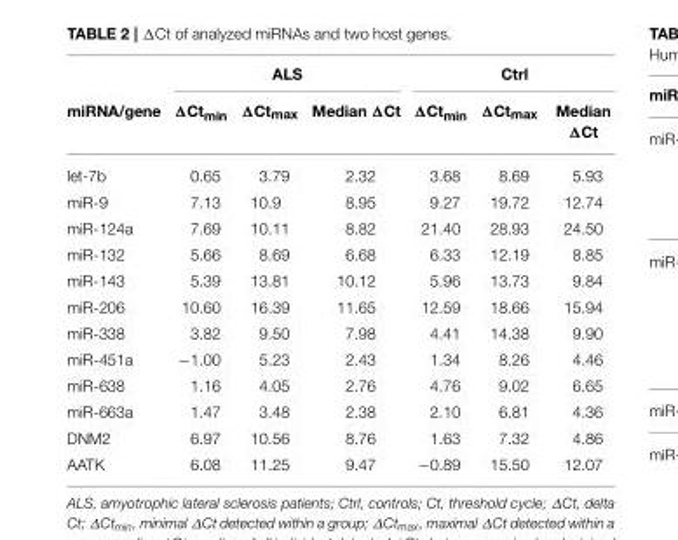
<table><thead><tr><td rowspan="2">miRNA/gene</td><td colspan="3">ALS</td><td colspan="3">Ctrl</td></tr><tr><td>ΔCt<sub>min</sub></td><td>ΔCt<sub>max</sub></td><td>Median ΔCt</td><td>ΔCt<sub>min</sub></td><td>ΔCt<sub>max</sub></td><td>Median ΔCt</td></tr></thead><tbody><tr><td>let-7b</td><td>0.65</td><td>3.79</td><td>2.32</td><td>3.68</td><td>8.69</td><td>5.93</td></tr><tr><td>miR-9</td><td>7.13</td><td>10.9</td><td>8.95</td><td>9.27</td><td>19.72</td><td>12.74</td></tr><tr><td>miR-124a</td><td>7.69</td><td>10.11</td><td>8.82</td><td>21.40</td><td>28.93</td><td>24.50</td></tr><tr><td>miR-132</td><td>5.66</td><td>8.69</td><td>6.68</td><td>6.33</td><td>12.19</td><td>8.85</td></tr><tr><td>miR-143</td><td>5.39</td><td>13.81</td><td>10.12</td><td>5.96</td><td>13.73</td><td>9.84</td></tr><tr><td>miR-206</td><td>10.60</td><td>16.39</td><td>11.65</td><td>12.59</td><td>18.66</td><td>15.94</td></tr><tr><td>miR-338</td><td>3.82</td><td>9.50</td><td>7.98</td><td>4.41</td><td>14.38</td><td>9.90</td></tr><tr><td>miR-451a</td><td>−1.00</td><td>5.23</td><td>2.43</td><td>1.34</td><td>8.26</td><td>4.46</td></tr><tr><td>miR-638</td><td>1.16</td><td>4.05</td><td>2.76</td><td>4.76</td><td>9.02</td><td>6.65</td></tr><tr><td>miR-663a</td><td>1.47</td><td>3.48</td><td>2.38</td><td>2.10</td><td>6.81</td><td>4.36</td></tr><tr><td>DNM2</td><td>6.97</td><td>10.56</td><td>8.76</td><td>1.63</td><td>7.32</td><td>4.86</td></tr><tr><td>AATK</td><td>6.08</td><td>11.25</td><td>9.47</td><td>−0.89</td><td>15.50</td><td>12.07</td></tr></tbody></table>